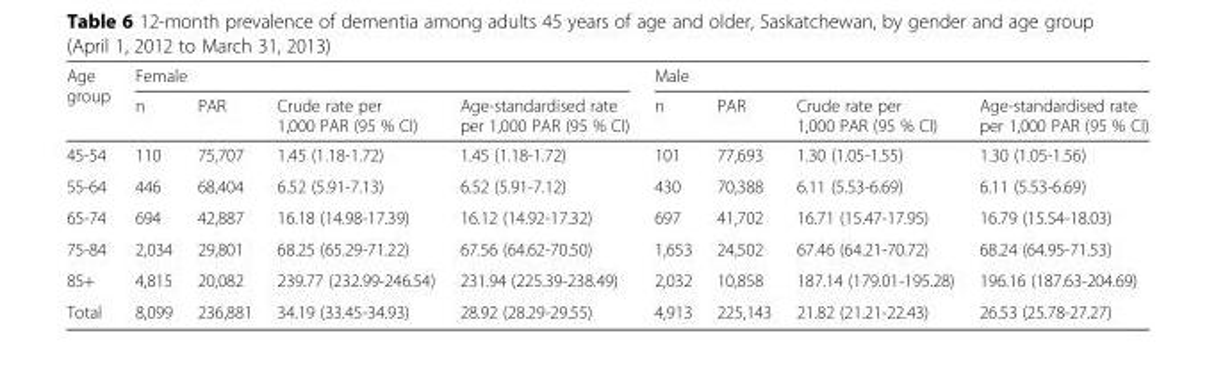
<table><thead><tr><td rowspan="2">Age group</td><td colspan="4">Female</td><td colspan="4">Male</td></tr><tr><td>n</td><td>PAR</td><td>Crude rate per 1,000 PAR (95 % CI)</td><td>Age-standardised rate per 1,000 PAR (95 % CI)</td><td>n</td><td>PAR</td><td>Crude rate per 1,000 PAR (95 % CI)</td><td>Age-standardised rate per 1,000 PAR (95 % CI)</td></tr></thead><tbody><tr><td>45-54</td><td>110</td><td>75,707</td><td>1.45 (1.18-1.72)</td><td>1.45 (1.18-1.72)</td><td>101</td><td>77,693</td><td>1.30 (1.05-1.55)</td><td>1.30 (1.05-1.56)</td></tr><tr><td>55-64</td><td>446</td><td>68,404</td><td>6.52 (5.91-7.13)</td><td>6.52 (5.91-7.12)</td><td>430</td><td>70,388</td><td>6.11 (5.53-6.69)</td><td>6.11 (5.53-6.69)</td></tr><tr><td>65-74</td><td>694</td><td>42,887</td><td>16.18 (14.98-17.39)</td><td>16.12 (14.92-17.32)</td><td>697</td><td>41,702</td><td>16.71 (15.47-17.95)</td><td>16.79 (15.54-18.03)</td></tr><tr><td>75-84</td><td>2,034</td><td>29,801</td><td>68.25 (65.29-71.22)</td><td>67.56 (64.62-70.50)</td><td>1,653</td><td>24,502</td><td>67.46 (64.21-70.72)</td><td>68.24 (64.95-71.53)</td></tr><tr><td>85+</td><td>4,815</td><td>20,082</td><td>239.77 (232.99-246.54)</td><td>231.94 (225.39-238.49)</td><td>2,032</td><td>10,858</td><td>187.14 (179.01-195.28)</td><td>196.16 (187.63-204.69)</td></tr><tr><td>Total</td><td>8,099</td><td>236,881</td><td>34.19 (33.45-34.93)</td><td>28.92 (28.29-29.55)</td><td>4,913</td><td>225,143</td><td>21.82 (21.21-22.43)</td><td>26.53 (25.78-27.27)</td></tr></tbody></table>